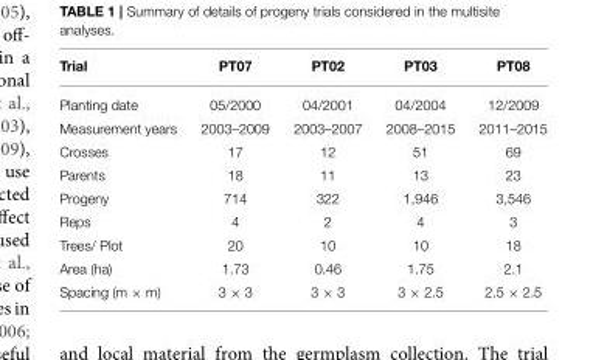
<table><thead><tr><td>Trial</td><td>PT07</td><td>PT02</td><td>PT03</td><td>PT08</td></tr></thead><tbody><tr><td>Planting date</td><td>05/2000</td><td>04/2001</td><td>04/2004</td><td>12/2009</td></tr><tr><td>Measurement years</td><td>2003–2009</td><td>2003–2007</td><td>2008–2015</td><td>2011–2015</td></tr><tr><td>Crosses</td><td>17</td><td>12</td><td>51</td><td>69</td></tr><tr><td>Parents</td><td>18</td><td>11</td><td>13</td><td>23</td></tr><tr><td>Progeny</td><td>714</td><td>322</td><td>1,946</td><td>3,546</td></tr><tr><td>Reps</td><td>4</td><td>2</td><td>4</td><td>3</td></tr><tr><td>Trees/ Plot</td><td>20</td><td>10</td><td>10</td><td>18</td></tr><tr><td>Area (ha)</td><td>1.73</td><td>0.46</td><td>1.75</td><td>2.1</td></tr><tr><td>Spacing (m × m)</td><td>3 × 3</td><td>3 × 3</td><td>3 × 2.5</td><td>2.5 × 2.5</td></tr></tbody></table>